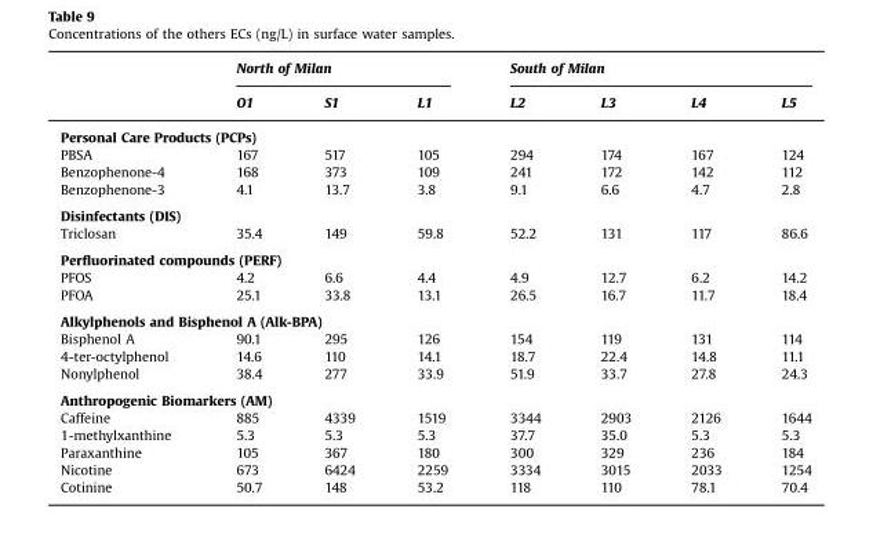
<table><thead><tr><td rowspan="2"></td><td colspan="3">North of Milan</td><td colspan="4">South of Milan</td></tr><tr><td>O1</td><td>S1</td><td>L1</td><td>L2</td><td>L3</td><td>L4</td><td>L5</td></tr></thead><tbody><tr><td colspan="8">Personal Care Products (PCPs)</td></tr><tr><td>PBSA</td><td>167</td><td>517</td><td>105</td><td>294</td><td>174</td><td>167</td><td>124</td></tr><tr><td>Benzophenone-4</td><td>168</td><td>373</td><td>109</td><td>241</td><td>172</td><td>142</td><td>112</td></tr><tr><td>Benzophenone-3</td><td>4.1</td><td>13.7</td><td>3.8</td><td>9.1</td><td>6.6</td><td>4.7</td><td>2.8</td></tr><tr><td colspan="8">Disinfectants (DIS)</td></tr><tr><td>Triclosan</td><td>35.4</td><td>149</td><td>59.8</td><td>52.2</td><td>131</td><td>117</td><td>86.6</td></tr><tr><td colspan="8">Perfluorinated compounds (PERF)</td></tr><tr><td>PFOS</td><td>4.2</td><td>6.6</td><td>4.4</td><td>4.9</td><td>12.7</td><td>6.2</td><td>14.2</td></tr><tr><td>PFOA</td><td>25.1</td><td>33.8</td><td>13.1</td><td>26.5</td><td>16.7</td><td>11.7</td><td>18.4</td></tr><tr><td colspan="8">Alkylphenols and Bisphenol A (Alk-BPA)</td></tr><tr><td>Bisphenol A</td><td>90.1</td><td>295</td><td>126</td><td>154</td><td>119</td><td>131</td><td>114</td></tr><tr><td>4-ter-octylphenol</td><td>14.6</td><td>110</td><td>14.1</td><td>18.7</td><td>22.4</td><td>14.8</td><td>11.1</td></tr><tr><td>Nonylphenol</td><td>38.4</td><td>277</td><td>33.9</td><td>51.9</td><td>33.7</td><td>27.8</td><td>24.3</td></tr><tr><td colspan="8">Anthropogenic Biomarkers (AM)</td></tr><tr><td>Caffeine</td><td>885</td><td>4339</td><td>1519</td><td>3344</td><td>2903</td><td>2126</td><td>1644</td></tr><tr><td>1-methylxanthine</td><td>5.3</td><td>5.3</td><td>5.3</td><td>37.7</td><td>35.0</td><td>5.3</td><td>5.3</td></tr><tr><td>Paraxanthine</td><td>105</td><td>367</td><td>180</td><td>300</td><td>329</td><td>236</td><td>184</td></tr><tr><td>Nicotine</td><td>673</td><td>6424</td><td>2259</td><td>3334</td><td>3015</td><td>2033</td><td>1254</td></tr><tr><td>Cotinine</td><td>50.7</td><td>148</td><td>53.2</td><td>118</td><td>110</td><td>78.1</td><td>70.4</td></tr></tbody></table>